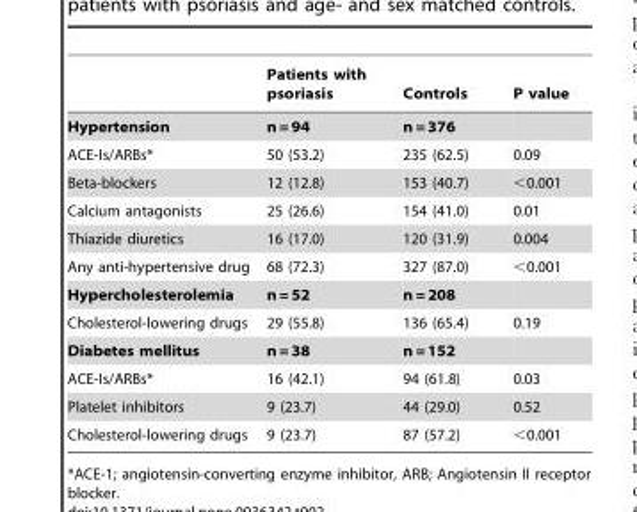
<table><thead><tr><td></td><td>Patients with psoriasis</td><td>Controls</td><td>P value</td></tr></thead><tbody><tr><td>Hypertension</td><td>n = 94</td><td>n = 376</td><td></td></tr><tr><td>ACE-Is/ARBs*</td><td>50 (53.2)</td><td>235 (62.5)</td><td>0.09</td></tr><tr><td>Beta-blockers</td><td>12 (12.8)</td><td>153 (40.7)</td><td>&lt;0.001</td></tr><tr><td>Calcium antagonists</td><td>25 (26.6)</td><td>154 (41.0)</td><td>0.01</td></tr><tr><td>Thiazide diuretics</td><td>16 (17.0)</td><td>120 (31.9)</td><td>0.004</td></tr><tr><td>Any anti-hypertensive drug</td><td>68 (72.3)</td><td>327 (87.0)</td><td>&lt;0.001</td></tr><tr><td>Hypercholesterolemia</td><td>n = 52</td><td>n = 208</td><td></td></tr><tr><td>Cholesterol-lowering drugs</td><td>29 (55.8)</td><td>136 (65.4)</td><td>0.19</td></tr><tr><td>Diabetes mellitus</td><td>n = 38</td><td>n = 152</td><td></td></tr><tr><td>ACE-Is/ARBs*</td><td>16 (42.1)</td><td>94 (61.8)</td><td>0.03</td></tr><tr><td>Platelet inhibitors</td><td>9 (23.7)</td><td>44 (29.0)</td><td>0.52</td></tr><tr><td>Cholesterol-lowering drugs</td><td>9 (23.7)</td><td>87 (57.2)</td><td>&lt;0.001</td></tr></tbody></table>